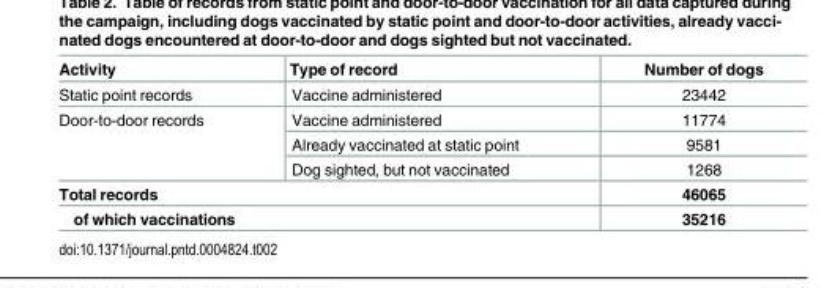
<table><thead><tr><td>Activity</td><td>Type of record</td><td>Number of dogs</td></tr></thead><tbody><tr><td>Static point records</td><td>Vaccine administered</td><td>23442</td></tr><tr><td rowspan="3">Door-to-door records</td><td>Vaccine administered</td><td>11774</td></tr><tr><td>Already vaccinated at static point</td><td>9581</td></tr><tr><td>Dog sighted, but not vaccinated</td><td>1268</td></tr><tr><td colspan="2">Total records</td><td>46065</td></tr><tr><td colspan="2">of which vaccinations</td><td>35216</td></tr></tbody></table>